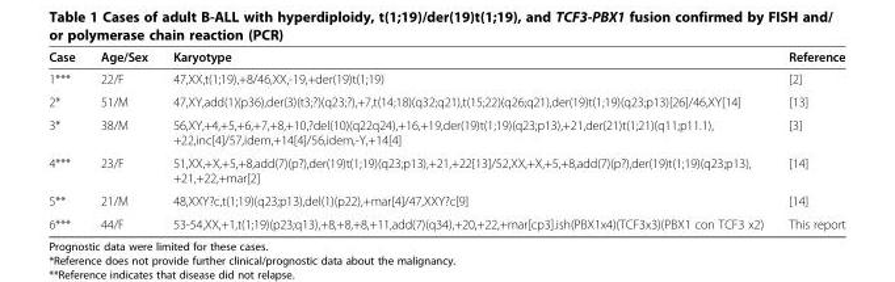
<table><thead><tr><td>Case</td><td>Age/Sex</td><td>Karyotype</td><td>Reference</td></tr></thead><tbody><tr><td>1***</td><td>22/F</td><td>47,XX,t(1;19),+8/46,XX,-19,+der(19)t(1;19)</td><td>[2]</td></tr><tr><td>2*</td><td>51/M</td><td>47,XY,add(1)(p36),der(3)(t3;?)(q23;?),+7,t(14;18)(q32;q21),t(15;22)(q26;q21),der(19)t(1;19)(q23;p13)[26]/46,XY[14]</td><td>[13]</td></tr><tr><td>3*</td><td>38/M</td><td>56,XY,+4,+5,+6,+7,+8,+10,?del(10)(q22q24),+16,+19,der(19)t(1;19)(q23;p13),+21,der(21)t(1;21)(q11;p11.1), +22,inc[4]/57,idem,+14[4]/56,idem,-Y,+14[4]</td><td>[3]</td></tr><tr><td>4***</td><td>23/F</td><td>51,XX,+X,+5,+8,add(7)(p?),der(19)t(1;19)(q23;p13),+21,+22[13]/52,XX,+X,+5,+8,add(7)(p?),der(19)t(1;19)(q23;p13), +21,+22,+mar[2]</td><td>[14]</td></tr><tr><td>5**</td><td>21/M</td><td>48,XXY?c,t(1;19)(q23;p13),del(1)(p22),+mar[4]/47,XXY?c[9]</td><td>[14]</td></tr><tr><td>6***</td><td>44/F</td><td>53-54,XX,+1,t(1;19)(p23;q13),+8,+8,+8,+11,add(7)(q34),+20,+22,+mar[cp3].ish(PBX1x4)(TCF3x3)(PBX1 con TCF3 x2)</td><td>This report</td></tr></tbody></table>